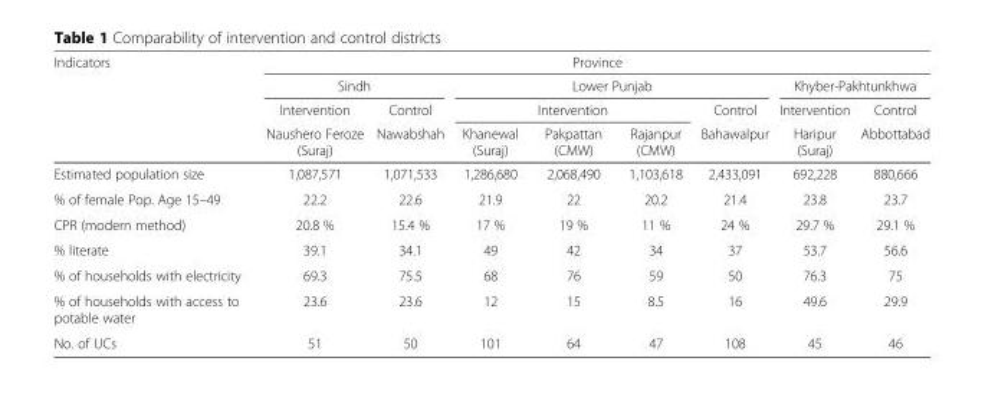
<table><thead><tr><td rowspan="4">Indicators</td><td colspan="8">Province</td></tr><tr><td colspan="2">Sindh</td><td colspan="4">Lower Punjab</td><td colspan="2">Khyber-Pakhtunkhwa</td></tr><tr><td rowspan="2">Intervention Naushero Feroze (Suraj)</td><td rowspan="2">Control Nawabshah</td><td colspan="3">Intervention</td><td rowspan="2">Control Bahawalpur</td><td rowspan="2">Intervention Haripur (Suraj)</td><td rowspan="2">Control Abbottabad</td></tr><tr><td>Khanewal (Suraj)</td><td>Pakpattan (CMW)</td><td>Rajanpur (CMW)</td></tr></thead><tbody><tr><td>Estimated population size</td><td>1,087,571</td><td>1,071,533</td><td>1,286,680</td><td>2,068,490</td><td>1,103,618</td><td>2,433,091</td><td>692,228</td><td>880,666</td></tr><tr><td>% of female Pop. Age 15–49</td><td>22.2</td><td>22.6</td><td>21.9</td><td>22</td><td>20.2</td><td>21.4</td><td>23.8</td><td>23.7</td></tr><tr><td>CPR (modern method)</td><td>20.8 %</td><td>15.4 %</td><td>17 %</td><td>19 %</td><td>11 %</td><td>24 %</td><td>29.7 %</td><td>29.1 %</td></tr><tr><td>% literate</td><td>39.1</td><td>34.1</td><td>49</td><td>42</td><td>34</td><td>37</td><td>53.7</td><td>56.6</td></tr><tr><td>% of households with electricity</td><td>69.3</td><td>75.5</td><td>68</td><td>76</td><td>59</td><td>50</td><td>76.3</td><td>75</td></tr><tr><td>% of households with access to potable water</td><td>23.6</td><td>23.6</td><td>12</td><td>15</td><td>8.5</td><td>16</td><td>49.6</td><td>29.9</td></tr><tr><td>No. of UCs</td><td>51</td><td>50</td><td>101</td><td>64</td><td>47</td><td>108</td><td>45</td><td>46</td></tr></tbody></table>